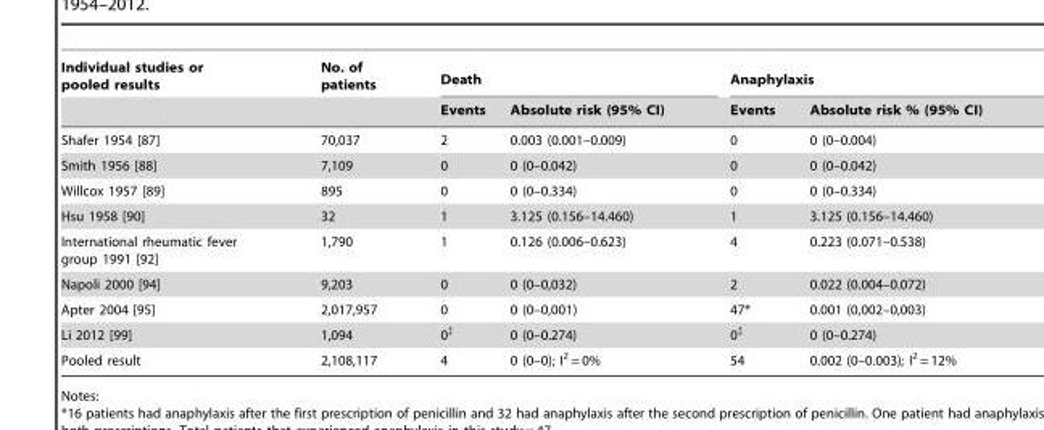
<table><thead><tr><td rowspan="2">Individual studies or pooled results</td><td rowspan="2">No. of patients</td><td colspan="2">Death</td><td colspan="2">Anaphylaxis</td></tr><tr><td>Events</td><td>Absolute risk (95% CI)</td><td>Events</td><td>Absolute risk % (95% CI)</td></tr></thead><tbody><tr><td>Shafer 1954 [87]</td><td>70,037</td><td>2</td><td>0.003 (0.001–0.009)</td><td>0</td><td>0 (0–0.004)</td></tr><tr><td>Smith 1956 [88]</td><td>7,109</td><td>0</td><td>0 (0–0.042)</td><td>0</td><td>0 (0–0.042)</td></tr><tr><td>Willcox 1957 [89]</td><td>895</td><td>0</td><td>0 (0–0.334)</td><td>0</td><td>0 (0–0.334)</td></tr><tr><td>Hsu 1958 [90]</td><td>32</td><td>1</td><td>3.125 (0.156–14.460)</td><td>1</td><td>3.125 (0.156–14.460)</td></tr><tr><td>International rheumatic fever group 1991 [92]</td><td>1,790</td><td>1</td><td>0.126 (0.006–0.623)</td><td>4</td><td>0.223 (0.071–0.538)</td></tr><tr><td>Napoli 2000 [94]</td><td>9,203</td><td>0</td><td>0 (0–0,032)</td><td>2</td><td>0.022 (0.004–0.072)</td></tr><tr><td>Apter 2004 [95]</td><td>2,017,957</td><td>0</td><td>0 (0–0,001)</td><td>47*</td><td>0.001 (0,002–0,003)</td></tr><tr><td>Li 2012 [99]</td><td>1,094</td><td>0‡</td><td>0 (0–0.274)</td><td>0‡</td><td>0 (0–0.274)</td></tr><tr><td>Pooled result</td><td>2,108,117</td><td>4</td><td>0 (0–0); I<sup>2</sup> = 0%</td><td>54</td><td>0.002 (0–0.003); I<sup>2</sup> = 12%</td></tr></tbody></table>